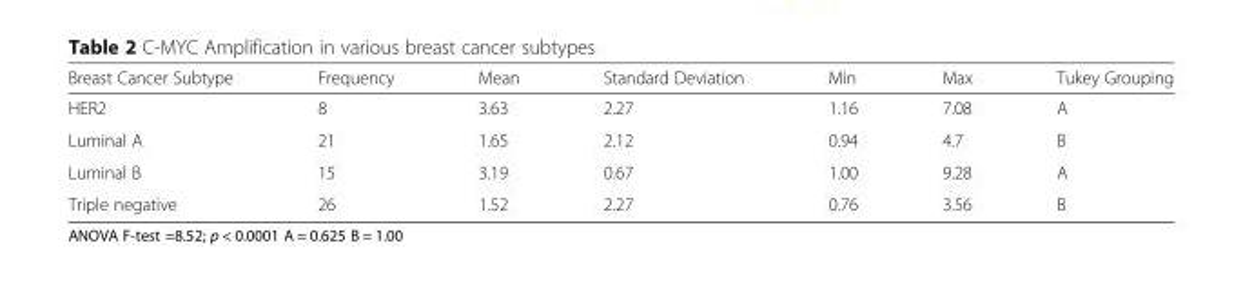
<table><thead><tr><td>Breast Cancer Subtype</td><td>Frequency</td><td>Mean</td><td>Standard Deviation</td><td>Min</td><td>Max</td><td>Tukey Grouping</td></tr></thead><tbody><tr><td>HER2</td><td>8</td><td>3.63</td><td>2.27</td><td>1.16</td><td>7.08</td><td>A</td></tr><tr><td>Luminal A</td><td>21</td><td>1.65</td><td>2.12</td><td>0.94</td><td>4.7</td><td>B</td></tr><tr><td>Luminal B</td><td>15</td><td>3.19</td><td>0.67</td><td>1.00</td><td>9.28</td><td>A</td></tr><tr><td>Triple negative</td><td>26</td><td>1.52</td><td>2.27</td><td>0.76</td><td>3.56</td><td>B</td></tr></tbody></table>